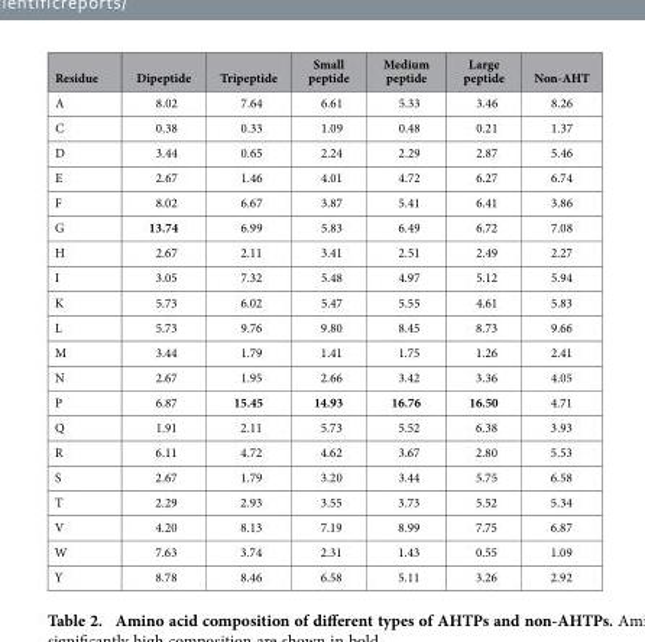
<table><thead><tr><td>Residue</td><td>Dipeptide</td><td>Tripeptide</td><td>Small peptide</td><td>Medium peptide</td><td>Large peptide</td><td>Non-AHT</td></tr></thead><tbody><tr><td>A</td><td>8.02</td><td>7.64</td><td>6.61</td><td>5.33</td><td>3.46</td><td>8.26</td></tr><tr><td>C</td><td>0.38</td><td>0.33</td><td>1.09</td><td>0.48</td><td>0.21</td><td>1.37</td></tr><tr><td>D</td><td>3.44</td><td>0.65</td><td>2.24</td><td>2.29</td><td>2.87</td><td>5.46</td></tr><tr><td>E</td><td>2.67</td><td>1.46</td><td>4.01</td><td>4.72</td><td>6.27</td><td>6.74</td></tr><tr><td>F</td><td>8.02</td><td>6.67</td><td>3.87</td><td>5.41</td><td>6.41</td><td>3.86</td></tr><tr><td>G</td><td>13.74</td><td>6.99</td><td>5.83</td><td>6.49</td><td>6.72</td><td>7.08</td></tr><tr><td>H</td><td>2.67</td><td>2.11</td><td>3.41</td><td>2.51</td><td>2.49</td><td>2.27</td></tr><tr><td>I</td><td>3.05</td><td>7.32</td><td>5.48</td><td>4.97</td><td>5.12</td><td>5.94</td></tr><tr><td>K</td><td>5.73</td><td>6.02</td><td>5.47</td><td>5.55</td><td>4.61</td><td>5.83</td></tr><tr><td>L</td><td>5.73</td><td>9.76</td><td>9.80</td><td>8.45</td><td>8.73</td><td>9.66</td></tr><tr><td>M</td><td>3.44</td><td>1.79</td><td>1.41</td><td>1.75</td><td>1.26</td><td>2.41</td></tr><tr><td>N</td><td>2.67</td><td>1.95</td><td>2.66</td><td>3.42</td><td>3.36</td><td>4.05</td></tr><tr><td>P</td><td>6.87</td><td>15.45</td><td>14.93</td><td>16.76</td><td>16.50</td><td>4.71</td></tr><tr><td>Q</td><td>1.91</td><td>2.11</td><td>5.73</td><td>5.52</td><td>6.38</td><td>3.93</td></tr><tr><td>R</td><td>6.11</td><td>4.72</td><td>4.62</td><td>3.67</td><td>2.80</td><td>5.53</td></tr><tr><td>S</td><td>2.67</td><td>1.79</td><td>3.20</td><td>3.44</td><td>5.75</td><td>6.58</td></tr><tr><td>T</td><td>2.29</td><td>2.93</td><td>3.55</td><td>3.73</td><td>5.52</td><td>5.34</td></tr><tr><td>V</td><td>4.20</td><td>8.13</td><td>7.19</td><td>8.99</td><td>7.75</td><td>6.87</td></tr><tr><td>W</td><td>7.63</td><td>3.74</td><td>2.31</td><td>1.43</td><td>0.55</td><td>1.09</td></tr><tr><td>Y</td><td>8.78</td><td>8.46</td><td>6.58</td><td>5.11</td><td>3.26</td><td>2.92</td></tr></tbody></table>